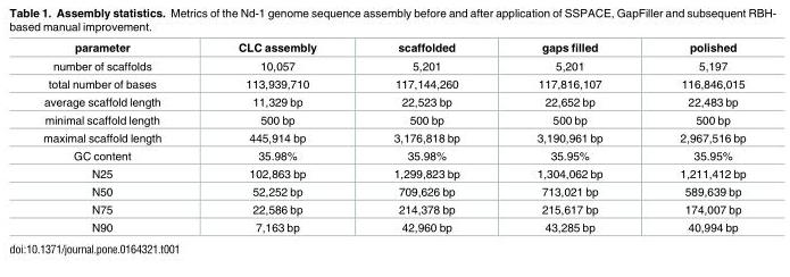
<table><thead><tr><td>parameter</td><td>CLC assembly</td><td>scaffolded</td><td>gaps filled</td><td>polished</td></tr></thead><tbody><tr><td>number of scaffolds</td><td>10,057</td><td>5,201</td><td>5,201</td><td>5,197</td></tr><tr><td>total number of bases</td><td>113,939,710</td><td>117,144,260</td><td>117,816,107</td><td>116,846,015</td></tr><tr><td>average scaffold length</td><td>11,329 bp</td><td>22,523 bp</td><td>22,652 bp</td><td>22,483 bp</td></tr><tr><td>minimal scaffold length</td><td>500 bp</td><td>500 bp</td><td>500 bp</td><td>500 bp</td></tr><tr><td>maximal scaffold length</td><td>445,914 bp</td><td>3,176,818 bp</td><td>3,190,961 bp</td><td>2,967,516 bp</td></tr><tr><td>GC content</td><td>35.98%</td><td>35.98%</td><td>35.95%</td><td>35.95%</td></tr><tr><td>N25</td><td>102,863 bp</td><td>1,299,823 bp</td><td>1,304,062 bp</td><td>1,211,412 bp</td></tr><tr><td>N50</td><td>52,252 bp</td><td>709,626 bp</td><td>713,021 bp</td><td>589,639 bp</td></tr><tr><td>N75</td><td>22,586 bp</td><td>214,378 bp</td><td>215,617 bp</td><td>174,007 bp</td></tr><tr><td>N90</td><td>7,163 bp</td><td>42,960 bp</td><td>43,285 bp</td><td>40,994 bp</td></tr></tbody></table>